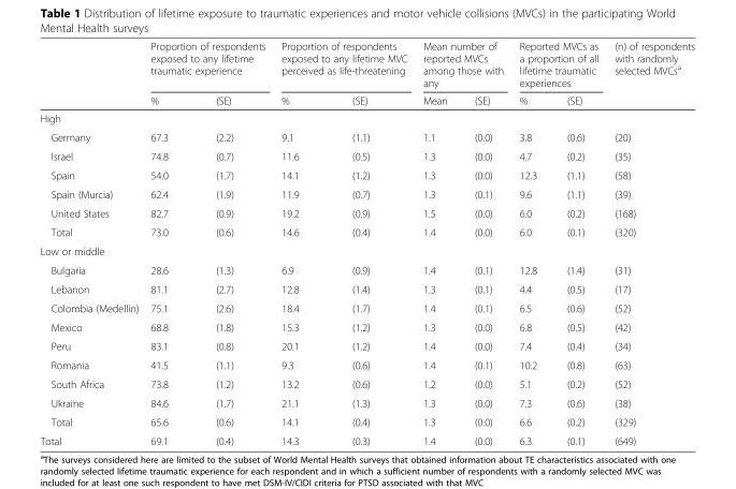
<table><thead><tr><td rowspan="2"></td><td colspan="2">Proportion of respondents exposed to any lifetime traumatic experience</td><td colspan="2">Proportion of respondents exposed to any lifetime MVC perceived as life-threatening</td><td colspan="2">Mean number of reported MVCs among those with any</td><td colspan="2">Reported MVCs as a proportion of all lifetime traumatic experiences</td><td rowspan="2">(n) of respondents with randomly selected MVCs<sup>a</sup></td></tr><tr><td>%</td><td>(SE)</td><td>%</td><td>(SE)</td><td>Mean</td><td>(SE)</td><td>%</td><td>(SE)</td></tr></thead><tbody><tr><td colspan="10">High</td></tr><tr><td>Germany</td><td>67.3</td><td>(2.2)</td><td>9.1</td><td>(1.1)</td><td>1.1</td><td>(0.0)</td><td>3.8</td><td>(0.6)</td><td>(20)</td></tr><tr><td>Israel</td><td>74.8</td><td>(0.7)</td><td>11.6</td><td>(0.5)</td><td>1.3</td><td>(0.0)</td><td>4.7</td><td>(0.2)</td><td>(35)</td></tr><tr><td>Spain</td><td>54.0</td><td>(1.7)</td><td>14.1</td><td>(1.2)</td><td>1.3</td><td>(0.0)</td><td>12.3</td><td>(1.1)</td><td>(58)</td></tr><tr><td>Spain (Murcia)</td><td>62.4</td><td>(1.9)</td><td>11.9</td><td>(0.7)</td><td>1.3</td><td>(0.1)</td><td>9.6</td><td>(1.1)</td><td>(39)</td></tr><tr><td>United States</td><td>82.7</td><td>(0.9)</td><td>19.2</td><td>(0.9)</td><td>1.5</td><td>(0.0)</td><td>6.0</td><td>(0.2)</td><td>(168)</td></tr><tr><td>Total</td><td>73.0</td><td>(0.6)</td><td>14.6</td><td>(0.4)</td><td>1.4</td><td>(0.0)</td><td>6.0</td><td>(0.1)</td><td>(320)</td></tr><tr><td colspan="10">Low or middle</td></tr><tr><td>Bulgaria</td><td>28.6</td><td>(1.3)</td><td>6.9</td><td>(0.9)</td><td>1.4</td><td>(0.1)</td><td>12.8</td><td>(1.4)</td><td>(31)</td></tr><tr><td>Lebanon</td><td>81.1</td><td>(2.7)</td><td>12.8</td><td>(1.4)</td><td>1.3</td><td>(0.1)</td><td>4.4</td><td>(0.5)</td><td>(17)</td></tr><tr><td>Colombia (Medellin)</td><td>75.1</td><td>(2.6)</td><td>18.4</td><td>(1.7)</td><td>1.4</td><td>(0.1)</td><td>6.5</td><td>(0.6)</td><td>(52)</td></tr><tr><td>Mexico</td><td>68.8</td><td>(1.8)</td><td>15.3</td><td>(1.2)</td><td>1.3</td><td>(0.0)</td><td>6.8</td><td>(0.5)</td><td>(42)</td></tr><tr><td>Peru</td><td>83.1</td><td>(0.8)</td><td>20.1</td><td>(1.2)</td><td>1.4</td><td>(0.0)</td><td>7.4</td><td>(0.4)</td><td>(34)</td></tr><tr><td>Romania</td><td>41.5</td><td>(1.1)</td><td>9.3</td><td>(0.6)</td><td>1.4</td><td>(0.1)</td><td>10.2</td><td>(0.8)</td><td>(63)</td></tr><tr><td>South Africa</td><td>73.8</td><td>(1.2)</td><td>13.2</td><td>(0.6)</td><td>1.2</td><td>(0.0)</td><td>5.1</td><td>(0.2)</td><td>(52)</td></tr><tr><td>Ukraine</td><td>84.6</td><td>(1.7)</td><td>21.1</td><td>(1.3)</td><td>1.3</td><td>(0.0)</td><td>7.3</td><td>(0.6)</td><td>(38)</td></tr><tr><td>Total</td><td>65.6</td><td>(0.6)</td><td>14.1</td><td>(0.4)</td><td>1.3</td><td>(0.0)</td><td>6.6</td><td>(0.2)</td><td>(329)</td></tr><tr><td>Total</td><td>69.1</td><td>(0.4)</td><td>14.3</td><td>(0.3)</td><td>1.4</td><td>(0.0)</td><td>6.3</td><td>(0.1)</td><td>(649)</td></tr></tbody></table>